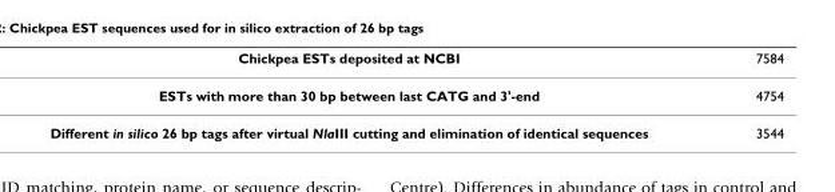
<table><thead><tr><td>Chickpea ESTs deposited at NCBI</td><td>7584</td></tr></thead><tbody><tr><td>ESTs with more than 30 bp between last CATG and 3&#x27;-end</td><td>4754</td></tr><tr><td>Different in silico 26 bp tags after virtual NlaIII cutting and elimination of identical sequences</td><td>3544</td></tr></tbody></table>